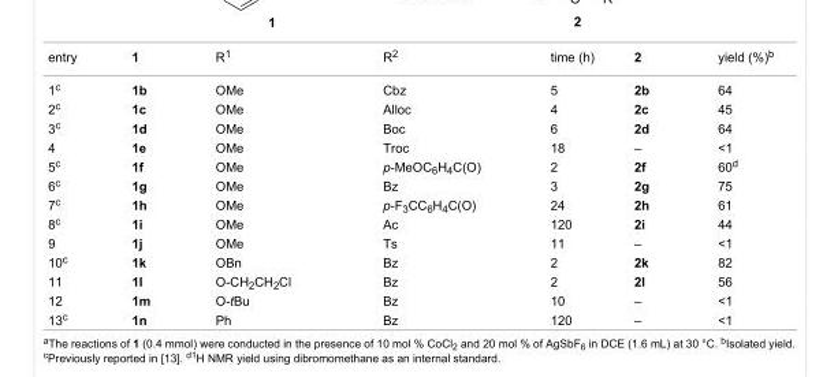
<table><tbody><tr><td>entry</td><td>1</td><td>R<sup>1</sup></td><td>R<sup>2</sup></td><td>time (h)</td><td>2</td><td>yield (%)<sup>b</sup></td></tr><tr><td>1<sup>c</sup></td><td>1b</td><td>OMe</td><td>Cbz</td><td>5</td><td>2b</td><td>64</td></tr><tr><td>2<sup>c</sup></td><td>1c</td><td>OMe</td><td>Alloc</td><td>4</td><td>2c</td><td>45</td></tr><tr><td>3<sup>c</sup></td><td>1d</td><td>OMe</td><td>Boc</td><td>6</td><td>2d</td><td>64</td></tr><tr><td>4</td><td>1e</td><td>OMe</td><td>Troc</td><td>18</td><td>–</td><td>&lt;1</td></tr><tr><td>5<sup>c</sup></td><td>1f</td><td>OMe</td><td>p-MeOC<sub>6</sub>H<sub>4</sub>C(O)</td><td>2</td><td>2f</td><td>60<sup>d</sup></td></tr><tr><td>6<sup>c</sup></td><td>1g</td><td>OMe</td><td>Bz</td><td>3</td><td>2g</td><td>75</td></tr><tr><td>7<sup>c</sup></td><td>1h</td><td>OMe</td><td>p-F<sub>3</sub>CC<sub>6</sub>H<sub>4</sub>C(O)</td><td>24</td><td>2h</td><td>61</td></tr><tr><td>8<sup>c</sup></td><td>1i</td><td>OMe</td><td>Ac</td><td>120</td><td>2i</td><td>44</td></tr><tr><td>9</td><td>1j</td><td>OMe</td><td>Ts</td><td>11</td><td>–</td><td>&lt;1</td></tr><tr><td>10<sup>c</sup></td><td>1k</td><td>OBn</td><td>Bz</td><td>2</td><td>2k</td><td>82</td></tr><tr><td>11</td><td>1l</td><td>O-CH<sub>2</sub>CH<sub>2</sub>Cl</td><td>Bz</td><td>2</td><td>2l</td><td>56</td></tr><tr><td>12</td><td>1m</td><td>O-tBu</td><td>Bz</td><td>10</td><td>–</td><td>&lt;1</td></tr><tr><td>13<sup>c</sup></td><td>1n</td><td>Ph</td><td>Bz</td><td>120</td><td>–</td><td>&lt;1</td></tr></tbody></table>